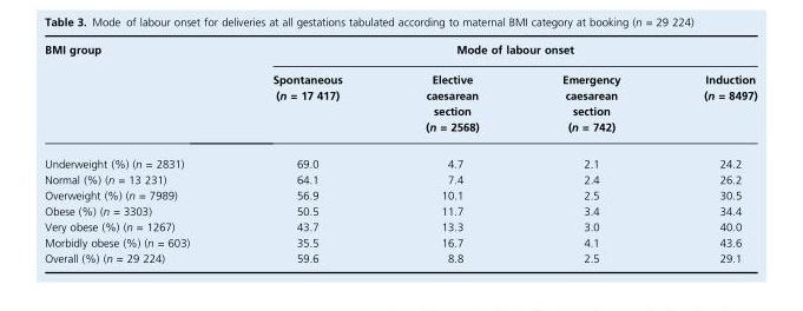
<table><thead><tr><td rowspan="2">BMI group</td><td colspan="4">Mode of labour onset</td></tr><tr><td>Spontaneous (n = 17 417)</td><td>Elective caesarean section (n = 2568)</td><td>Emergency caesarean section (n = 742)</td><td>Induction (n = 8497)</td></tr></thead><tbody><tr><td>Underweight (%) (n = 2831)</td><td>69.0</td><td>4.7</td><td>2.1</td><td>24.2</td></tr><tr><td>Normal (%) (n = 13 231)</td><td>64.1</td><td>7.4</td><td>2.4</td><td>26.2</td></tr><tr><td>Overweight (%) (n = 7989)</td><td>56.9</td><td>10.1</td><td>2.5</td><td>30.5</td></tr><tr><td>Obese (%) (n = 3303)</td><td>50.5</td><td>11.7</td><td>3.4</td><td>34.4</td></tr><tr><td>Very obese (%) (n = 1267)</td><td>43.7</td><td>13.3</td><td>3.0</td><td>40.0</td></tr><tr><td>Morbidly obese (%) (n = 603)</td><td>35.5</td><td>16.7</td><td>4.1</td><td>43.6</td></tr><tr><td>Overall (%) (n = 29 224)</td><td>59.6</td><td>8.8</td><td>2.5</td><td>29.1</td></tr></tbody></table>